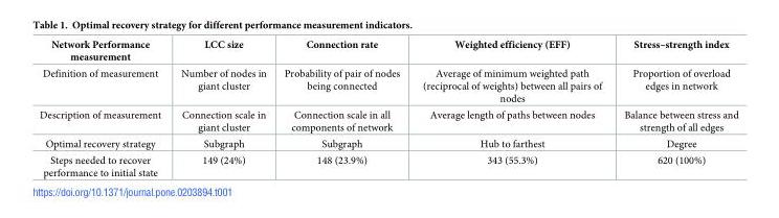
<table><thead><tr><td>Network Performance measurement</td><td>LCC size</td><td>Connection rate</td><td>Weighted efficiency (EFF)</td><td>Stress–strength index</td></tr></thead><tbody><tr><td>Definition of measurement</td><td>Number of nodes in giant cluster</td><td>Probability of pair of nodes being connected</td><td>Average of minimum weighted path (reciprocal of weights) between all pairs of nodes</td><td>Proportion of overload edges in network</td></tr><tr><td>Description of measurement</td><td>Connection scale in giant cluster</td><td>Connection scale in all components of network</td><td>Average length of paths between nodes</td><td>Balance between stress and strength of all edges</td></tr><tr><td>Optimal recovery strategy</td><td>Subgraph</td><td>Subgraph</td><td>Hub to farthest</td><td>Degree</td></tr><tr><td>Steps needed to recover performance to initial state</td><td>149 (24%)</td><td>148 (23.9%)</td><td>343 (55.3%)</td><td>620 (100%)</td></tr></tbody></table>